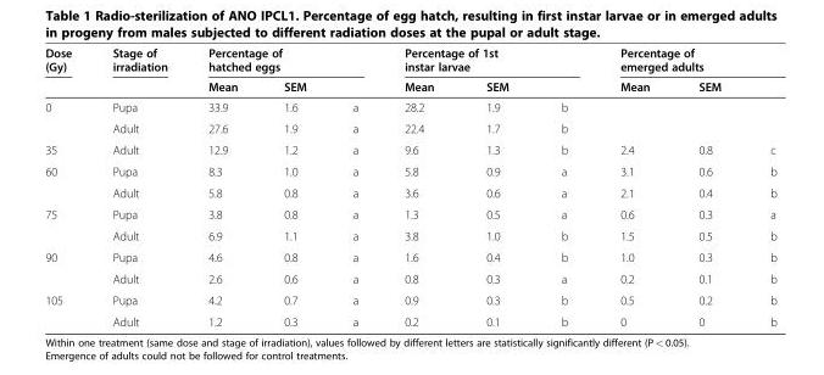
<table><thead><tr><td rowspan="2">Dose (Gy)</td><td rowspan="2">Stage of irradiation</td><td colspan="3">Percentage of hatched eggs</td><td colspan="3">Percentage of 1st instar larvae</td><td colspan="3">Percentage of emerged adults</td></tr><tr><td>Mean</td><td>SEM</td><td></td><td>Mean</td><td>SEM</td><td></td><td>Mean</td><td>SEM</td><td></td></tr></thead><tbody><tr><td rowspan="2">0</td><td>Pupa</td><td>33.9</td><td>1.6</td><td>a</td><td>28.2</td><td>1.9</td><td>b</td><td></td><td></td><td></td></tr><tr><td>Adult</td><td>27.6</td><td>1.9</td><td>a</td><td>22.4</td><td>1.7</td><td>b</td><td></td><td></td><td></td></tr><tr><td>35</td><td>Adult</td><td>12.9</td><td>1.2</td><td>a</td><td>9.6</td><td>1.3</td><td>b</td><td>2.4</td><td>0.8</td><td>c</td></tr><tr><td rowspan="2">60</td><td>Pupa</td><td>8.3</td><td>1.0</td><td>a</td><td>5.8</td><td>0.9</td><td>a</td><td>3.1</td><td>0.6</td><td>b</td></tr><tr><td>Adult</td><td>5.8</td><td>0.8</td><td>a</td><td>3.6</td><td>0.6</td><td>a</td><td>2.1</td><td>0.4</td><td>b</td></tr><tr><td rowspan="2">75</td><td>Pupa</td><td>3.8</td><td>0.8</td><td>a</td><td>1.3</td><td>0.5</td><td>a</td><td>0.6</td><td>0.3</td><td>a</td></tr><tr><td>Adult</td><td>6.9</td><td>1.1</td><td>a</td><td>3.8</td><td>1.0</td><td>b</td><td>1.5</td><td>0.5</td><td>b</td></tr><tr><td rowspan="2">90</td><td>Pupa</td><td>4.6</td><td>0.8</td><td>a</td><td>1.6</td><td>0.4</td><td>b</td><td>1.0</td><td>0.3</td><td>b</td></tr><tr><td>Adult</td><td>2.6</td><td>0.6</td><td>a</td><td>0.8</td><td>0.3</td><td>a</td><td>0.2</td><td>0.1</td><td>b</td></tr><tr><td rowspan="2">105</td><td>Pupa</td><td>4.2</td><td>0.7</td><td>a</td><td>0.9</td><td>0.3</td><td>b</td><td>0.5</td><td>0.2</td><td>b</td></tr><tr><td>Adult</td><td>1.2</td><td>0.3</td><td>a</td><td>0.2</td><td>0.1</td><td>b</td><td>0</td><td>0</td><td>b</td></tr></tbody></table>